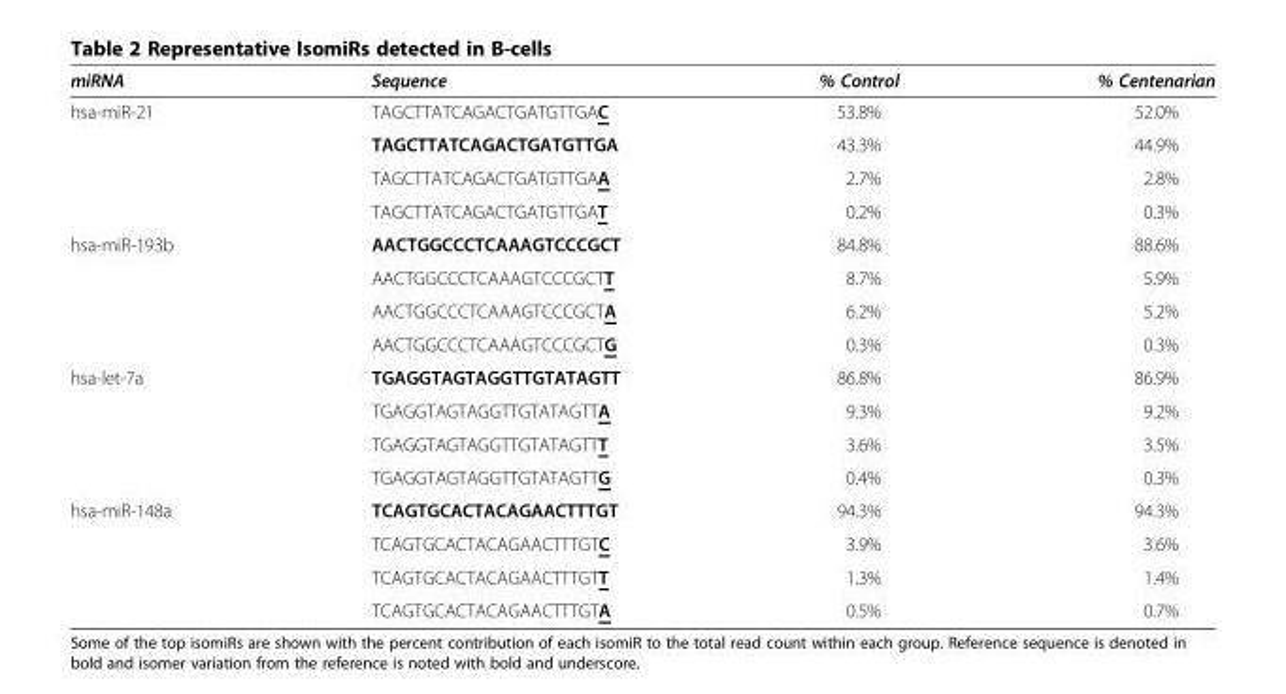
<table><thead><tr><td>miRNA</td><td>Sequence</td><td>% Control</td><td>% Centenarian</td></tr></thead><tbody><tr><td rowspan="4">hsa-miR-21</td><td>TAGCTTATCAGACTGATGTTGAC</td><td>53.8%</td><td>52.0%</td></tr><tr><td>TAGCTTATCAGACTGATGTTGA</td><td>43.3%</td><td>44.9%</td></tr><tr><td>TAGCTTATCAGACTGATGTTGAA</td><td>2.7%</td><td>2.8%</td></tr><tr><td>TAGCTTATCAGACTGATGTTGAT</td><td>0.2%</td><td>0.3%</td></tr><tr><td rowspan="4">hsa-miR-193b</td><td>AACTGGCCCTCAAAGTCCCGCT</td><td>84.8%</td><td>88.6%</td></tr><tr><td>AACTGGCCCTCAAAGTCCCGCTT</td><td>8.7%</td><td>5.9%</td></tr><tr><td>AACTGGCCCTCAAAGTCCCGCTA</td><td>6.2%</td><td>5.2%</td></tr><tr><td>AACTGGCCCTCAAAGTCCCGCTG</td><td>0.3%</td><td>0.3%</td></tr><tr><td rowspan="4">hsa-let-7a</td><td>TGAGGTAGTAGGTTGTATAGTT</td><td>86.8%</td><td>86.9%</td></tr><tr><td>TGAGGTAGTAGGTTGTATAGTTA</td><td>9.3%</td><td>9.2%</td></tr><tr><td>TGAGGTAGTAGGTTGTATAGTTT</td><td>3.6%</td><td>3.5%</td></tr><tr><td>TGAGGTAGTAGGTTGTATAGTTG</td><td>0.4%</td><td>0.3%</td></tr><tr><td rowspan="4">hsa-miR-148a</td><td>TCAGTGCACTACAGAACTTTGT</td><td>94.3%</td><td>94.3%</td></tr><tr><td>TCAGTGCACTACAGAACTTTGTC</td><td>3.9%</td><td>3.6%</td></tr><tr><td>TCAGTGCACTACAGAACTTTGTT</td><td>1.3%</td><td>1.4%</td></tr><tr><td>TCAGTGCACTACAGAACTTTGTA</td><td>0.5%</td><td>0.7%</td></tr></tbody></table>